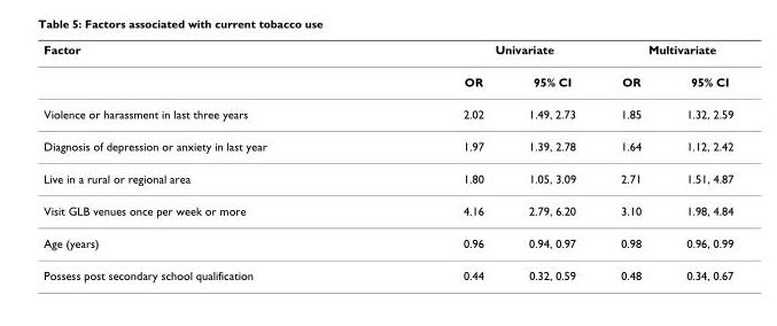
<table><thead><tr><td rowspan="2">Factor</td><td colspan="2">Univariate</td><td colspan="2">Multivariate</td></tr><tr><td>OR</td><td>95% CI</td><td>OR</td><td>95% CI</td></tr></thead><tbody><tr><td>Violence or harassment in last three years</td><td>2.02</td><td>1.49, 2.73</td><td>1.85</td><td>1.32, 2.59</td></tr><tr><td>Diagnosis of depression or anxiety in last year</td><td>1.97</td><td>1.39, 2.78</td><td>1.64</td><td>1.12, 2.42</td></tr><tr><td>Live in a rural or regional area</td><td>1.80</td><td>1.05, 3.09</td><td>2.71</td><td>1.51, 4.87</td></tr><tr><td>Visit GLB venues once per week or more</td><td>4.16</td><td>2.79, 6.20</td><td>3.10</td><td>1.98, 4.84</td></tr><tr><td>Age (years)</td><td>0.96</td><td>0.94, 0.97</td><td>0.98</td><td>0.96, 0.99</td></tr><tr><td>Possess post secondary school qualification</td><td>0.44</td><td>0.32, 0.59</td><td>0.48</td><td>0.34, 0.67</td></tr></tbody></table>